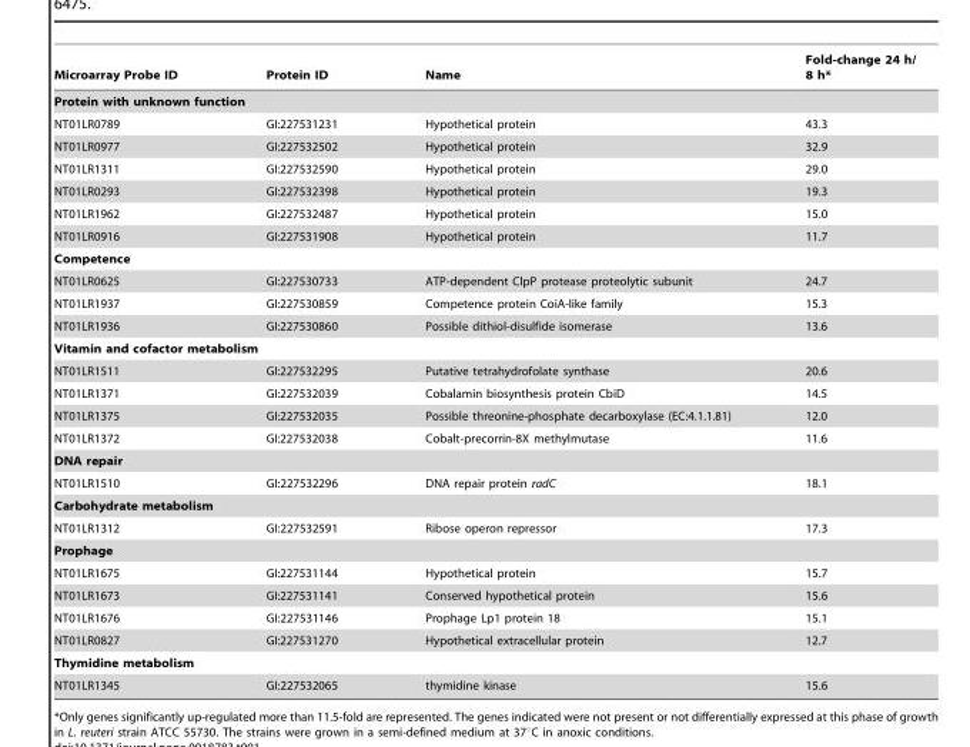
<table><thead><tr><td>Microarray Probe ID</td><td>Protein ID</td><td>Name</td><td>Fold-change 24 h/ 8 h*</td></tr></thead><tbody><tr><td colspan="4">Protein with unknown function</td></tr><tr><td>NT01LR0789</td><td>GI:227531231</td><td>Hypothetical protein</td><td>43.3</td></tr><tr><td>NT01LR0977</td><td>GI:227532502</td><td>Hypothetical protein</td><td>32.9</td></tr><tr><td>NT01LR1311</td><td>GI:227532590</td><td>Hypothetical protein</td><td>29.0</td></tr><tr><td>NT01LR0293</td><td>GI:227532398</td><td>Hypothetical protein</td><td>19.3</td></tr><tr><td>NT01LR1962</td><td>GI:227532487</td><td>Hypothetical protein</td><td>15.0</td></tr><tr><td>NT01LR0916</td><td>GI:227531908</td><td>Hypothetical protein</td><td>11.7</td></tr><tr><td colspan="4">Competence</td></tr><tr><td>NT01LR0625</td><td>GI:227530733</td><td>ATP-dependent ClpP protease proteolytic subunit</td><td>24.7</td></tr><tr><td>NT01LR1937</td><td>GI:227530859</td><td>Competence protein CoiA-like family</td><td>15.3</td></tr><tr><td>NT01LR1936</td><td>GI:227530860</td><td>Possible dithiol-disulfide isomerase</td><td>13.6</td></tr><tr><td colspan="4">Vitamin and cofactor metabolism</td></tr><tr><td>NT01LR1511</td><td>GI:227532295</td><td>Putative tetrahydrofolate synthase</td><td>20.6</td></tr><tr><td>NT01LR1371</td><td>GI:227532039</td><td>Cobalamin biosynthesis protein CbiD</td><td>14.5</td></tr><tr><td>NT01LR1375</td><td>GI:227532035</td><td>Possible threonine-phosphate decarboxylase (EC:4.1.1.81)</td><td>12.0</td></tr><tr><td>NT01LR1372</td><td>GI:227532038</td><td>Cobalt-precorrin-8X methylmutase</td><td>11.6</td></tr><tr><td colspan="4">DNA repair</td></tr><tr><td>NT01LR1510</td><td>GI:227532296</td><td>DNA repair protein radC</td><td>18.1</td></tr><tr><td colspan="4">Carbohydrate metabolism</td></tr><tr><td>NT01LR1312</td><td>GI:227532591</td><td>Ribose operon repressor</td><td>17.3</td></tr><tr><td colspan="4">Prophage</td></tr><tr><td>NT01LR1675</td><td>GI:227531144</td><td>Hypothetical protein</td><td>15.7</td></tr><tr><td>NT01LR1673</td><td>GI:227531141</td><td>Conserved hypothetical protein</td><td>15.6</td></tr><tr><td>NT01LR1676</td><td>GI:227531146</td><td>Prophage Lp1 protein 18</td><td>15.1</td></tr><tr><td>NT01LR0827</td><td>GI:227531270</td><td>Hypothetical extracellular protein</td><td>12.7</td></tr><tr><td colspan="4">Thymidine metabolism</td></tr><tr><td>NT01LR1345</td><td>GI:227532065</td><td>thymidine kinase</td><td>15.6</td></tr></tbody></table>